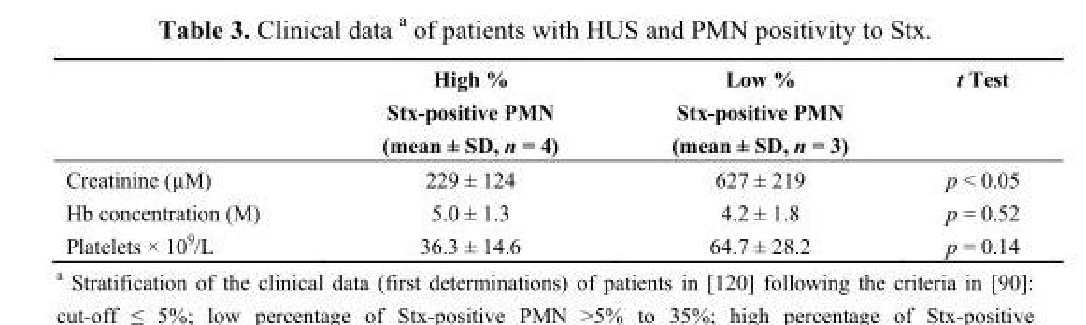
<table><thead><tr><td></td><td>High % Stx-positive PMN (mean ± SD, n = 4)</td><td>Low % Stx-positive PMN (mean ± SD, n = 3)</td><td>t Test</td></tr></thead><tbody><tr><td>Creatinine (µM)</td><td>229 ± 124</td><td>627 ± 219</td><td>p &lt; 0.05</td></tr><tr><td>Hb concentration (M)</td><td>5.0 ± 1.3</td><td>4.2 ± 1.8</td><td>p = 0.52</td></tr><tr><td>Platelets × 10<sup>9</sup>/L</td><td>36.3 ± 14.6</td><td>64.7 ± 28.2</td><td>p = 0.14</td></tr></tbody></table>